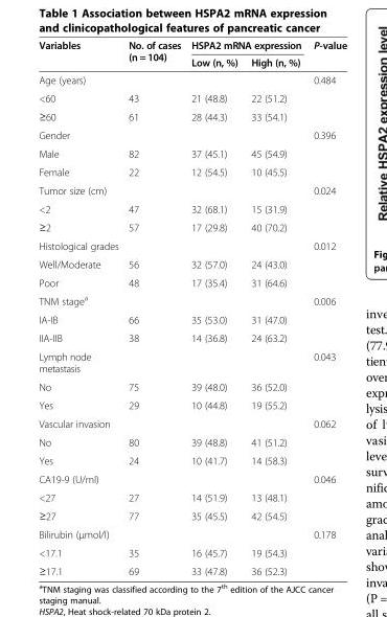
<table><thead><tr><td rowspan="2">Variables</td><td rowspan="2">No. of cases (n = 104)</td><td colspan="2">HSPA2 mRNA expression</td><td rowspan="2">P-value</td></tr><tr><td>Low (n, %)</td><td>High (n, %)</td></tr></thead><tbody><tr><td>Age (years)</td><td></td><td></td><td></td><td>0.484</td></tr><tr><td>&lt;60</td><td>43</td><td>21 (48.8)</td><td>22 (51.2)</td><td></td></tr><tr><td>≥60</td><td>61</td><td>28 (44.3)</td><td>33 (54.1)</td><td></td></tr><tr><td>Gender</td><td></td><td></td><td></td><td>0.396</td></tr><tr><td>Male</td><td>82</td><td>37 (45.1)</td><td>45 (54.9)</td><td></td></tr><tr><td>Female</td><td>22</td><td>12 (54.5)</td><td>10 (45.5)</td><td></td></tr><tr><td>Tumor size (cm)</td><td></td><td></td><td></td><td>0.024</td></tr><tr><td>&lt;2</td><td>47</td><td>32 (68.1)</td><td>15 (31.9)</td><td></td></tr><tr><td>≥2</td><td>57</td><td>17 (29.8)</td><td>40 (70.2)</td><td></td></tr><tr><td>Histological grades</td><td></td><td></td><td></td><td>0.012</td></tr><tr><td>Well/Moderate</td><td>56</td><td>32 (57.0)</td><td>24 (43.0)</td><td></td></tr><tr><td>Poor</td><td>48</td><td>17 (35.4)</td><td>31 (64.6)</td><td></td></tr><tr><td>TNM stage<sup>a</sup></td><td></td><td></td><td></td><td>0.006</td></tr><tr><td>IA-IB</td><td>66</td><td>35 (53.0)</td><td>31 (47.0)</td><td></td></tr><tr><td>IIA-IIB</td><td>38</td><td>14 (36.8)</td><td>24 (63.2)</td><td></td></tr><tr><td>Lymph node metastasis</td><td></td><td></td><td></td><td>0.043</td></tr><tr><td>No</td><td>75</td><td>39 (48.0)</td><td>36 (52.0)</td><td></td></tr><tr><td>Yes</td><td>29</td><td>10 (44.8)</td><td>19 (55.2)</td><td></td></tr><tr><td>Vascular invasion</td><td></td><td></td><td></td><td>0.062</td></tr><tr><td>No</td><td>80</td><td>39 (48.8)</td><td>41 (51.2)</td><td></td></tr><tr><td>Yes</td><td>24</td><td>10 (41.7)</td><td>14 (58.3)</td><td></td></tr><tr><td>CA19-9 (U/ml)</td><td></td><td></td><td></td><td>0.046</td></tr><tr><td>&lt;27</td><td>27</td><td>14 (51.9)</td><td>13 (48.1)</td><td></td></tr><tr><td>≥27</td><td>77</td><td>35 (45.5)</td><td>42 (54.5)</td><td></td></tr><tr><td>Bilirubin (μmol/l)</td><td></td><td></td><td></td><td>0.178</td></tr><tr><td>&lt;17.1</td><td>35</td><td>16 (45.7)</td><td>19 (54.3)</td><td></td></tr><tr><td>≥17.1</td><td>69</td><td>33 (47.8)</td><td>36 (52.3)</td><td></td></tr></tbody></table>